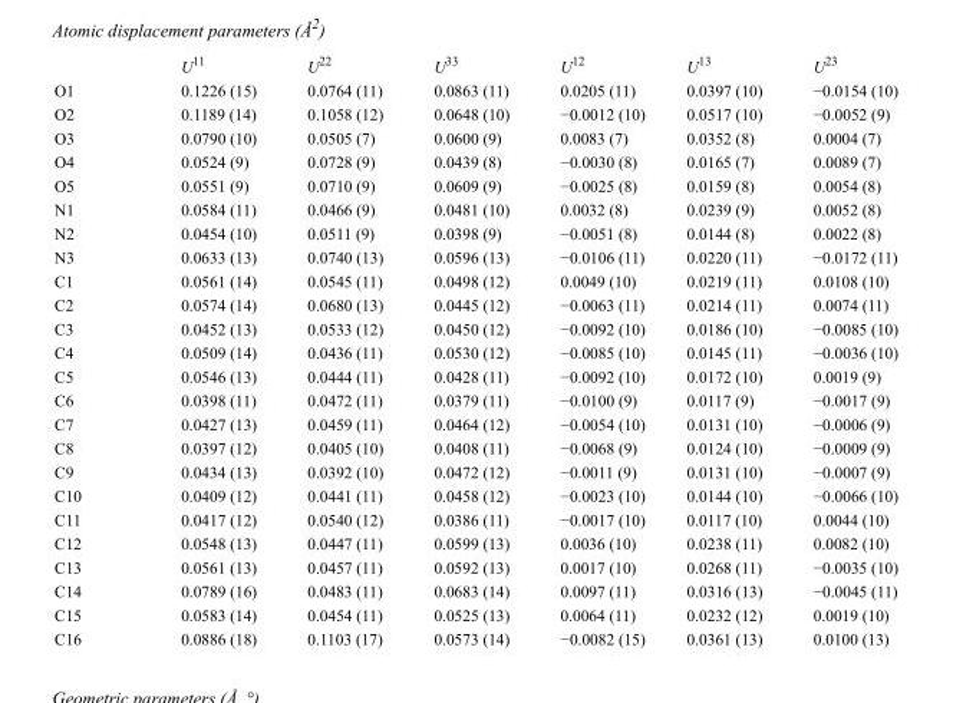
<table><thead><tr><td></td><td>U<sup>11</sup></td><td>U<sup>22</sup></td><td>U<sup>33</sup></td><td>U<sup>12</sup></td><td>U<sup>13</sup></td><td>U<sup>23</sup></td></tr></thead><tbody><tr><td>O1</td><td>0.1226 (15)</td><td>0.0764 (11)</td><td>0.0863 (11)</td><td>0.0205 (11)</td><td>0.0397 (10)</td><td>−0.0154 (10)</td></tr><tr><td>O2</td><td>0.1189 (14)</td><td>0.1058 (12)</td><td>0.0648 (10)</td><td>−0.0012 (10)</td><td>0.0517 (10)</td><td>−0.0052 (9)</td></tr><tr><td>O3</td><td>0.0790 (10)</td><td>0.0505 (7)</td><td>0.0600 (9)</td><td>0.0083 (7)</td><td>0.0352 (8)</td><td>0.0004 (7)</td></tr><tr><td>O4</td><td>0.0524 (9)</td><td>0.0728 (9)</td><td>0.0439 (8)</td><td>−0.0030 (8)</td><td>0.0165 (7)</td><td>0.0089 (7)</td></tr><tr><td>O5</td><td>0.0551 (9)</td><td>0.0710 (9)</td><td>0.0609 (9)</td><td>−0.0025 (8)</td><td>0.0159 (8)</td><td>0.0054 (8)</td></tr><tr><td>N1</td><td>0.0584 (11)</td><td>0.0466 (9)</td><td>0.0481 (10)</td><td>0.0032 (8)</td><td>0.0239 (9)</td><td>0.0052 (8)</td></tr><tr><td>N2</td><td>0.0454 (10)</td><td>0.0511 (9)</td><td>0.0398 (9)</td><td>−0.0051 (8)</td><td>0.0144 (8)</td><td>0.0022 (8)</td></tr><tr><td>N3</td><td>0.0633 (13)</td><td>0.0740 (13)</td><td>0.0596 (13)</td><td>−0.0106 (11)</td><td>0.0220 (11)</td><td>−0.0172 (11)</td></tr><tr><td>C1</td><td>0.0561 (14)</td><td>0.0545 (11)</td><td>0.0498 (12)</td><td>0.0049 (10)</td><td>0.0219 (11)</td><td>0.0108 (10)</td></tr><tr><td>C2</td><td>0.0574 (14)</td><td>0.0680 (13)</td><td>0.0445 (12)</td><td>−0.0063 (11)</td><td>0.0214 (11)</td><td>0.0074 (11)</td></tr><tr><td>C3</td><td>0.0452 (13)</td><td>0.0533 (12)</td><td>0.0450 (12)</td><td>−0.0092 (10)</td><td>0.0186 (10)</td><td>−0.0085 (10)</td></tr><tr><td>C4</td><td>0.0509 (14)</td><td>0.0436 (11)</td><td>0.0530 (12)</td><td>−0.0085 (10)</td><td>0.0145 (11)</td><td>−0.0036 (10)</td></tr><tr><td>C5</td><td>0.0546 (13)</td><td>0.0444 (11)</td><td>0.0428 (11)</td><td>−0.0092 (10)</td><td>0.0172 (10)</td><td>0.0019 (9)</td></tr><tr><td>C6</td><td>0.0398 (11)</td><td>0.0472 (11)</td><td>0.0379 (11)</td><td>−0.0100 (9)</td><td>0.0117 (9)</td><td>−0.0017 (9)</td></tr><tr><td>C7</td><td>0.0427 (13)</td><td>0.0459 (11)</td><td>0.0464 (12)</td><td>−0.0054 (10)</td><td>0.0131 (10)</td><td>−0.0006 (9)</td></tr><tr><td>C8</td><td>0.0397 (12)</td><td>0.0405 (10)</td><td>0.0408 (11)</td><td>−0.0068 (9)</td><td>0.0124 (10)</td><td>−0.0009 (9)</td></tr><tr><td>C9</td><td>0.0434 (13)</td><td>0.0392 (10)</td><td>0.0472 (12)</td><td>−0.0011 (9)</td><td>0.0131 (10)</td><td>−0.0007 (9)</td></tr><tr><td>C10</td><td>0.0409 (12)</td><td>0.0441 (11)</td><td>0.0458 (12)</td><td>−0.0023 (10)</td><td>0.0144 (10)</td><td>−0.0066 (10)</td></tr><tr><td>C11</td><td>0.0417 (12)</td><td>0.0540 (12)</td><td>0.0386 (11)</td><td>−0.0017 (10)</td><td>0.0117 (10)</td><td>0.0044 (10)</td></tr><tr><td>C12</td><td>0.0548 (13)</td><td>0.0447 (11)</td><td>0.0599 (13)</td><td>0.0036 (10)</td><td>0.0238 (11)</td><td>0.0082 (10)</td></tr><tr><td>C13</td><td>0.0561 (13)</td><td>0.0457 (11)</td><td>0.0592 (13)</td><td>0.0017 (10)</td><td>0.0268 (11)</td><td>−0.0035 (10)</td></tr><tr><td>C14</td><td>0.0789 (16)</td><td>0.0483 (11)</td><td>0.0683 (14)</td><td>0.0097 (11)</td><td>0.0316 (13)</td><td>−0.0045 (11)</td></tr><tr><td>C15</td><td>0.0583 (14)</td><td>0.0454 (11)</td><td>0.0525 (13)</td><td>0.0064 (11)</td><td>0.0232 (12)</td><td>0.0019 (10)</td></tr><tr><td>C16</td><td>0.0886 (18)</td><td>0.1103 (17)</td><td>0.0573 (14)</td><td>−0.0082 (15)</td><td>0.0361 (13)</td><td>0.0100 (13)</td></tr></tbody></table>